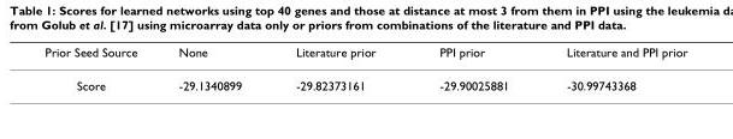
<table><thead><tr><td>Prior Seed Source</td><td>None</td><td>Literature prior</td><td>PPI prior</td><td>Literature and PPI prior</td></tr></thead><tbody><tr><td>Score</td><td>-29.1340899</td><td>-29.82373161</td><td>-29.90025881</td><td>-30.99743368</td></tr></tbody></table>